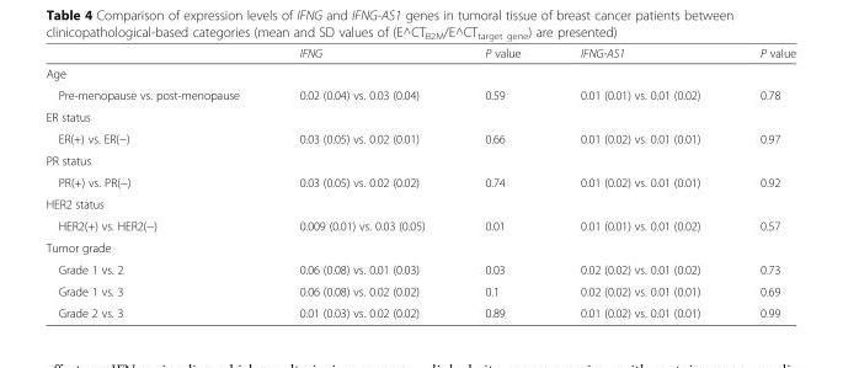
<table><thead><tr><td></td><td>IFNG</td><td>P value</td><td>IFNG-AS1</td><td>P value</td></tr></thead><tbody><tr><td colspan="5">Age</td></tr><tr><td>Pre-menopause vs. post-menopause</td><td>0.02 (0.04) vs. 0.03 (0.04)</td><td>0.59</td><td>0.01 (0.01) vs. 0.01 (0.02)</td><td>0.78</td></tr><tr><td colspan="5">ER status</td></tr><tr><td>ER(+) vs. ER(−)</td><td>0.03 (0.05) vs. 0.02 (0.01)</td><td>0.66</td><td>0.01 (0.02) vs. 0.01 (0.01)</td><td>0.97</td></tr><tr><td colspan="5">PR status</td></tr><tr><td>PR(+) vs. PR(−)</td><td>0.03 (0.05) vs. 0.02 (0.02)</td><td>0.74</td><td>0.01 (0.02) vs. 0.01 (0.01)</td><td>0.92</td></tr><tr><td colspan="5">HER2 status</td></tr><tr><td>HER2(+) vs. HER2(−)</td><td>0.009 (0.01) vs. 0.03 (0.05)</td><td>0.01</td><td>0.01 (0.01) vs. 0.01 (0.02)</td><td>0.57</td></tr><tr><td colspan="5">Tumor grade</td></tr><tr><td>Grade 1 vs. 2</td><td>0.06 (0.08) vs. 0.01 (0.03)</td><td>0.03</td><td>0.02 (0.02) vs. 0.01 (0.02)</td><td>0.73</td></tr><tr><td>Grade 1 vs. 3</td><td>0.06 (0.08) vs. 0.02 (0.02)</td><td>0.1</td><td>0.02 (0.02) vs. 0.01 (0.01)</td><td>0.69</td></tr><tr><td>Grade 2 vs. 3</td><td>0.01 (0.03) vs. 0.02 (0.02)</td><td>0.89</td><td>0.01 (0.02) vs. 0.01 (0.01)</td><td>0.99</td></tr></tbody></table>